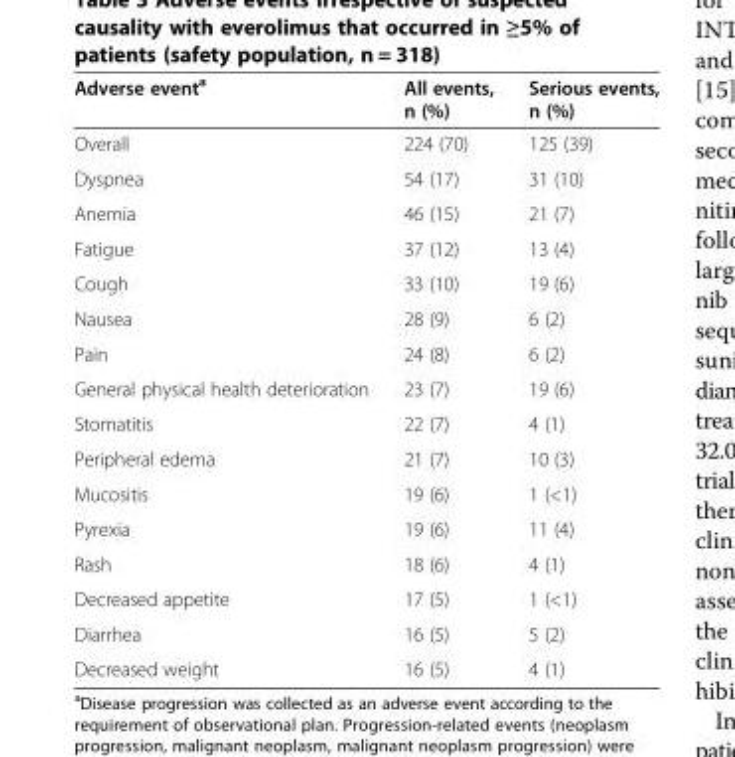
<table><thead><tr><td>Adverse event<sup>a</sup></td><td>All events, n (%)</td><td>Serious events, n (%)</td></tr></thead><tbody><tr><td>Overall</td><td>224 (70)</td><td>125 (39)</td></tr><tr><td>Dyspnea</td><td>54 (17)</td><td>31 (10)</td></tr><tr><td>Anemia</td><td>46 (15)</td><td>21 (7)</td></tr><tr><td>Fatigue</td><td>37 (12)</td><td>13 (4)</td></tr><tr><td>Cough</td><td>33 (10)</td><td>19 (6)</td></tr><tr><td>Nausea</td><td>28 (9)</td><td>6 (2)</td></tr><tr><td>Pain</td><td>24 (8)</td><td>6 (2)</td></tr><tr><td>General physical health deterioration</td><td>23 (7)</td><td>19 (6)</td></tr><tr><td>Stomatitis</td><td>22 (7)</td><td>4 (1)</td></tr><tr><td>Peripheral edema</td><td>21 (7)</td><td>10 (3)</td></tr><tr><td>Mucositis</td><td>19 (6)</td><td>1 (&lt;1)</td></tr><tr><td>Pyrexia</td><td>19 (6)</td><td>11 (4)</td></tr><tr><td>Rash</td><td>18 (6)</td><td>4 (1)</td></tr><tr><td>Decreased appetite</td><td>17 (5)</td><td>1 (&lt;1)</td></tr><tr><td>Diarrhea</td><td>16 (5)</td><td>5 (2)</td></tr><tr><td>Decreased weight</td><td>16 (5)</td><td>4 (1)</td></tr></tbody></table>